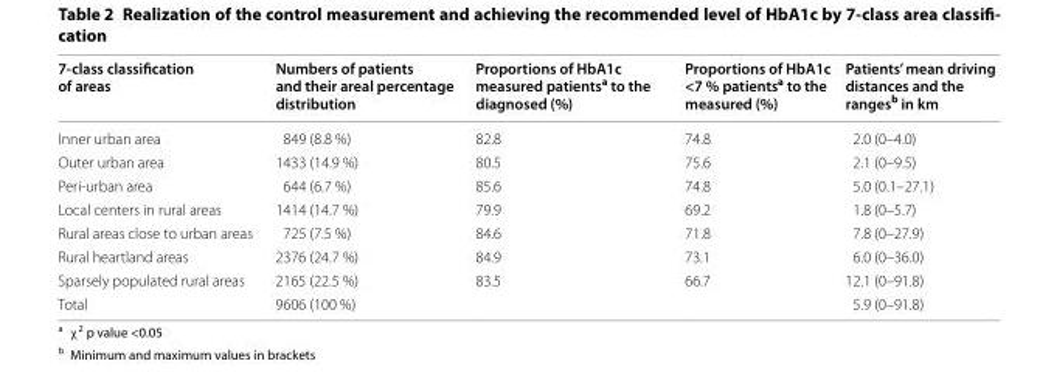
<table><thead><tr><td>7-class classification of areas</td><td>Numbers of patients and their areal percentage distribution</td><td>Proportions of HbA1c measured patients<sup>a</sup> to the diagnosed (%)</td><td>Proportions of HbA1c &lt;7 % patients<sup>a</sup> to the measured (%)</td><td>Patients’ mean driving distances and the ranges<sup>b</sup> in km</td></tr></thead><tbody><tr><td>Inner urban area</td><td>849 (8.8 %)</td><td>82.8</td><td>74.8</td><td>2.0 (0–4.0)</td></tr><tr><td>Outer urban area</td><td>1433 (14.9 %)</td><td>80.5</td><td>75.6</td><td>2.1 (0–9.5)</td></tr><tr><td>Peri-urban area</td><td>644 (6.7 %)</td><td>85.6</td><td>74.8</td><td>5.0 (0.1–27.1)</td></tr><tr><td>Local centers in rural areas</td><td>1414 (14.7 %)</td><td>79.9</td><td>69.2</td><td>1.8 (0–5.7)</td></tr><tr><td>Rural areas close to urban areas</td><td>725 (7.5 %)</td><td>84.6</td><td>71.8</td><td>7.8 (0–27.9)</td></tr><tr><td>Rural heartland areas</td><td>2376 (24.7 %)</td><td>84.9</td><td>73.1</td><td>6.0 (0–36.0)</td></tr><tr><td>Sparsely populated rural areas</td><td>2165 (22.5 %)</td><td>83.5</td><td>66.7</td><td>12.1 (0–91.8)</td></tr><tr><td>Total</td><td>9606 (100 %)</td><td></td><td></td><td>5.9 (0–91.8)</td></tr></tbody></table>